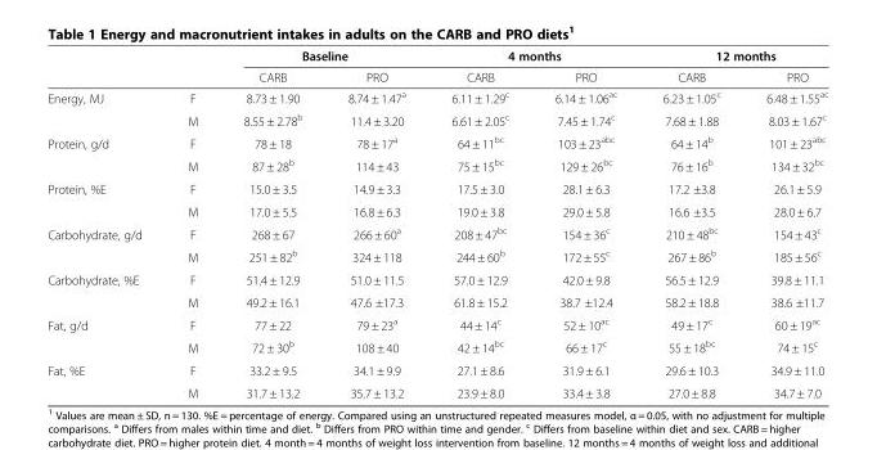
<table><thead><tr><td rowspan="2"></td><td rowspan="2"></td><td colspan="2">Baseline</td><td colspan="2">4 months</td><td colspan="2">12 months</td></tr><tr><td>CARB</td><td>PRO</td><td>CARB</td><td>PRO</td><td>CARB</td><td>PRO</td></tr></thead><tbody><tr><td rowspan="2">Energy, MJ</td><td>F</td><td>8.73 ± 1.90</td><td>8.74 ± 1.47<sup>a</sup></td><td>6.11 ± 1.29<sup>c</sup></td><td>6.14 ± 1.06<sup>ac</sup></td><td>6.23 ± 1.05<sup>c</sup></td><td>6.48 ± 1.55<sup>ac</sup></td></tr><tr><td>M</td><td>8.55 ± 2.78<sup>b</sup></td><td>11.4 ± 3.20</td><td>6.61 ± 2.05<sup>c</sup></td><td>7.45 ± 1.74<sup>c</sup></td><td>7.68 ± 1.88</td><td>8.03 ± 1.67<sup>c</sup></td></tr><tr><td rowspan="2">Protein, g/d</td><td>F</td><td>78 ± 18</td><td>78 ± 17<sup>a</sup></td><td>64 ± 11<sup>bc</sup></td><td>103 ± 23<sup>abc</sup></td><td>64 ± 14<sup>b</sup></td><td>101 ± 23<sup>abc</sup></td></tr><tr><td>M</td><td>87 ± 28<sup>b</sup></td><td>114 ± 43</td><td>75 ± 15<sup>bc</sup></td><td>129 ± 26<sup>bc</sup></td><td>76 ± 16<sup>b</sup></td><td>134 ± 32<sup>bc</sup></td></tr><tr><td rowspan="2">Protein, %E</td><td>F</td><td>15.0 ± 3.5</td><td>14.9 ± 3.3</td><td>17.5 ± 3.0</td><td>28.1 ± 6.3</td><td>17.2 ±3.8</td><td>26.1 ± 5.9</td></tr><tr><td>M</td><td>17.0 ± 5.5</td><td>16.8 ± 6.3</td><td>19.0 ± 3.8</td><td>29.0 ± 5.8</td><td>16.6 ±3.5</td><td>28.0 ± 6.7</td></tr><tr><td rowspan="2">Carbohydrate, g/d</td><td>F</td><td>268 ± 67</td><td>266 ± 60<sup>a</sup></td><td>208 ± 47<sup>bc</sup></td><td>154 ± 36<sup>c</sup></td><td>210 ± 48<sup>bc</sup></td><td>154 ± 43<sup>c</sup></td></tr><tr><td>M</td><td>251 ± 82<sup>b</sup></td><td>324 ± 118</td><td>244 ± 60<sup>b</sup></td><td>172 ± 55<sup>c</sup></td><td>267 ± 86<sup>b</sup></td><td>185 ± 56<sup>c</sup></td></tr><tr><td rowspan="2">Carbohydrate, %E</td><td>F</td><td>51.4 ± 12.9</td><td>51.0 ± 11.5</td><td>57.0 ± 12.9</td><td>42.0 ± 9.8</td><td>56.5 ± 12.9</td><td>39.8 ± 11.1</td></tr><tr><td>M</td><td>49.2 ± 16.1</td><td>47.6 ±17.3</td><td>61.8 ± 15.2</td><td>38.7 ±12.4</td><td>58.2 ± 18.8</td><td>38.6 ±11.7</td></tr><tr><td rowspan="2">Fat, g/d</td><td>F</td><td>77 ± 22</td><td>79 ± 23<sup>a</sup></td><td>44 ± 14<sup>c</sup></td><td>52 ± 10<sup>ac</sup></td><td>49 ± 17<sup>c</sup></td><td>60 ± 19<sup>ac</sup></td></tr><tr><td>M</td><td>72 ± 30<sup>b</sup></td><td>108 ± 40</td><td>42 ± 14<sup>bc</sup></td><td>66 ± 17<sup>c</sup></td><td>55 ± 18<sup>bc</sup></td><td>74 ± 15<sup>c</sup></td></tr><tr><td rowspan="2">Fat, %E</td><td>F</td><td>33.2 ± 9.5</td><td>34.1 ± 9.9</td><td>27.1 ± 8.6</td><td>31.9 ± 6.1</td><td>29.6 ± 10.3</td><td>34.9 ± 11.0</td></tr><tr><td>M</td><td>31.7 ± 13.2</td><td>35.7 ± 13.2</td><td>23.9 ± 8.0</td><td>33.4 ± 3.8</td><td>27.0 ± 8.8</td><td>34.7 ± 7.0</td></tr></tbody></table>